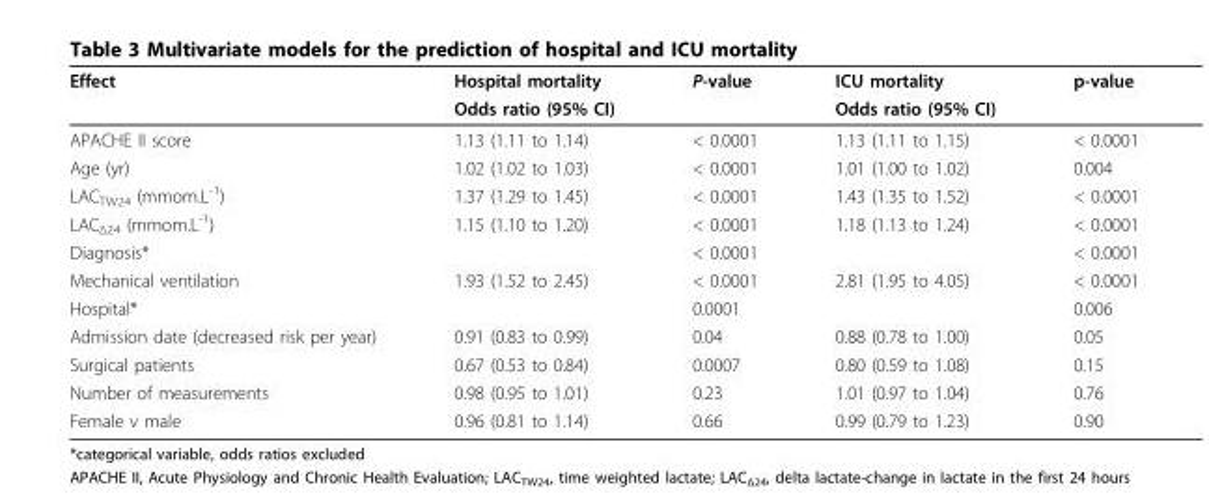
<table><thead><tr><td rowspan="2">Effect</td><td rowspan="2">Hospital mortality Odds ratio (95% CI)</td><td rowspan="2">P-value</td><td rowspan="2">ICU mortality Odds ratio (95% CI)</td><td rowspan="2">p-value</td></tr><tr></tr></thead><tbody><tr><td>APACHE II score</td><td>1.13 (1.11 to 1.14)</td><td>&lt; 0.0001</td><td>1.13 (1.11 to 1.15)</td><td>&lt; 0.0001</td></tr><tr><td>Age (yr)</td><td>1.02 (1.02 to 1.03)</td><td>&lt; 0.0001</td><td>1.01 (1.00 to 1.02)</td><td>0.004</td></tr><tr><td>LAC<sub>TW24</sub> (mmom.L<sup>-1</sup>)</td><td>1.37 (1.29 to 1.45)</td><td>&lt; 0.0001</td><td>1.43 (1.35 to 1.52)</td><td>&lt; 0.0001</td></tr><tr><td>LAC<sub>Δ24</sub> (mmom.L<sup>-1</sup>)</td><td>1.15 (1.10 to 1.20)</td><td>&lt; 0.0001</td><td>1.18 (1.13 to 1.24)</td><td>&lt; 0.0001</td></tr><tr><td>Diagnosis*</td><td></td><td>&lt; 0.0001</td><td></td><td>&lt; 0.0001</td></tr><tr><td>Mechanical ventilation</td><td>1.93 (1.52 to 2.45)</td><td>&lt; 0.0001</td><td>2.81 (1.95 to 4.05)</td><td>&lt; 0.0001</td></tr><tr><td>Hospital*</td><td></td><td>0.0001</td><td></td><td>0.006</td></tr><tr><td>Admission date (decreased risk per year)</td><td>0.91 (0.83 to 0.99)</td><td>0.04</td><td>0.88 (0.78 to 1.00)</td><td>0.05</td></tr><tr><td>Surgical patients</td><td>0.67 (0.53 to 0.84)</td><td>0.0007</td><td>0.80 (0.59 to 1.08)</td><td>0.15</td></tr><tr><td>Number of measurements</td><td>0.98 (0.95 to 1.01)</td><td>0.23</td><td>1.01 (0.97 to 1.04)</td><td>0.76</td></tr><tr><td>Female v male</td><td>0.96 (0.81 to 1.14)</td><td>0.66</td><td>0.99 (0.79 to 1.23)</td><td>0.90</td></tr></tbody></table>